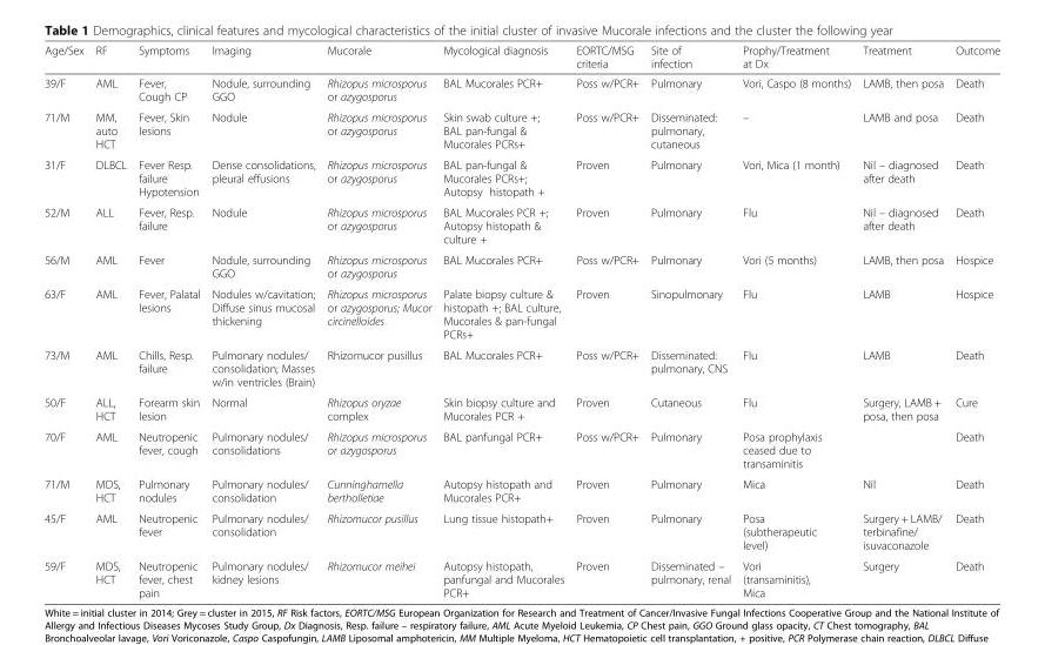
<table><thead><tr><td>Age/Sex</td><td>RF</td><td>Symptoms</td><td>Imaging</td><td>Mucorale</td><td>Mycological diagnosis</td><td>EORTC/MSG criteria</td><td>Site of infection</td><td>Prophy/Treatment at Dx</td><td>Treatment</td><td>Outcome</td></tr></thead><tbody><tr><td>39/F</td><td>AML</td><td>Fever, Cough CP</td><td>Nodule, surrounding GGO</td><td>Rhizopus microsporus or azygosporus</td><td>BAL Mucorales PCR+</td><td>Poss w/PCR+</td><td>Pulmonary</td><td>Vori, Caspo (8 months)</td><td>LAMB, then posa</td><td>Death</td></tr><tr><td>71/M</td><td>MM, auto HCT</td><td>Fever, Skin lesions</td><td>Nodule</td><td>Rhizopus microsporus or azygosporus</td><td>Skin swab culture +; BAL pan-fungal &amp; Mucorales PCRs+</td><td>Poss w/PCR+</td><td>Disseminated: pulmonary, cutaneous</td><td>–</td><td>LAMB and posa</td><td>Death</td></tr><tr><td>31/F</td><td>DLBCL</td><td>Fever Resp. failure Hypotension</td><td>Dense consolidations, pleural effusions</td><td>Rhizopus microsporus or azygosporus</td><td>BAL pan-fungal &amp; Mucorales PCRs+; Autopsy histopath +</td><td>Proven</td><td>Pulmonary</td><td>Vori, Mica (1 month)</td><td>Nil – diagnosed after death</td><td>Death</td></tr><tr><td>52/M</td><td>ALL</td><td>Fever, Resp. failure</td><td>Nodule</td><td>Rhizopus microsporus or azygosporus</td><td>BAL Mucorales PCR +; Autopsy histopath &amp; culture +</td><td>Proven</td><td>Pulmonary</td><td>Flu</td><td>Nil – diagnosed after death</td><td>Death</td></tr><tr><td>56/M</td><td>AML</td><td>Fever</td><td>Nodule, surrounding GGO</td><td>Rhizopus microsporus or azygosporus</td><td>BAL Mucorales PCR+</td><td>Poss w/PCR+</td><td>Pulmonary</td><td>Vori (5 months)</td><td>LAMB, then posa</td><td>Hospice</td></tr><tr><td>63/F</td><td>AML</td><td>Fever, Palatal lesions</td><td>Nodules w/cavitation; Diffuse sinus mucosal thickening</td><td>Rhizopus microsporus or azygosporus; Mucor circinelloides</td><td>Palate biopsy culture &amp; histopath +; BAL culture, Mucorales &amp; pan-fungal PCRs+</td><td>Proven</td><td>Sinopulmonary</td><td>Flu</td><td>LAMB</td><td>Hospice</td></tr><tr><td>73/M</td><td>AML</td><td>Chills, Resp. failure</td><td>Pulmonary nodules/ consolidation; Masses w/in ventricles (Brain)</td><td>Rhizomucor pusillus</td><td>BAL Mucorales PCR+</td><td>Poss w/PCR+</td><td>Disseminated: pulmonary, CNS</td><td>Flu</td><td>LAMB</td><td>Death</td></tr><tr><td>50/F</td><td>ALL, HCT</td><td>Forearm skin lesion</td><td>Normal</td><td>Rhizopus oryzae complex</td><td>Skin biopsy culture and Mucorales PCR +</td><td>Proven</td><td>Cutaneous</td><td>Flu</td><td>Surgery, LAMB + posa, then posa</td><td>Cure</td></tr><tr><td>70/F</td><td>AML</td><td>Neutropenic fever, cough</td><td>Pulmonary nodules/ consolidations</td><td>Rhizopus microsporus or azygosporus</td><td>BAL panfungal PCR+</td><td>Poss w/PCR+</td><td>Pulmonary</td><td>Posa prophylaxis ceased due to transaminitis</td><td></td><td>Death</td></tr><tr><td>71/M</td><td>MDS, HCT</td><td>Pulmonary nodules</td><td>Pulmonary nodules/ consolidation</td><td>Cunninghamella bertholletiae</td><td>Autopsy histopath and Mucorales PCR+</td><td>Proven</td><td>Pulmonary</td><td>Mica</td><td>Nil</td><td>Death</td></tr><tr><td>45/F</td><td>AML</td><td>Neutropenic fever</td><td>Pulmonary nodules/ consolidation</td><td>Rhizomucor pusillus</td><td>Lung tissue histopath+</td><td>Proven</td><td>Pulmonary</td><td>Posa (subtherapeutic level)</td><td>Surgery + LAMB/ terbinafine/ isuvaconazole</td><td>Death</td></tr><tr><td>59/F</td><td>MDS, HCT</td><td>Neutropenic fever, chest pain</td><td>Pulmonary nodules/ kidney lesions</td><td>Rhizomucor meihei</td><td>Autopsy histopath, panfungal and Mucorales PCR+</td><td>Proven</td><td>Disseminated – pulmonary, renal</td><td>Vori (transaminitis), Mica</td><td>Surgery</td><td>Death</td></tr></tbody></table>